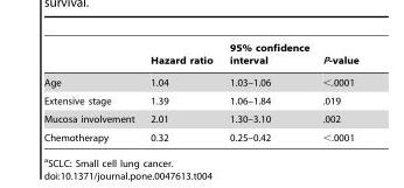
<table><thead><tr><td></td><td>Hazard ratio</td><td>95% confidence interval</td><td>P-value</td></tr></thead><tbody><tr><td>Age</td><td>1.04</td><td>1.03–1.06</td><td>&lt;.0001</td></tr><tr><td>Extensive stage</td><td>1.39</td><td>1.06–1.84</td><td>.019</td></tr><tr><td>Mucosa involvement</td><td>2.01</td><td>1.30–3.10</td><td>.002</td></tr><tr><td>Chemotherapy</td><td>0.32</td><td>0.25–0.42</td><td>&lt;.0001</td></tr></tbody></table>